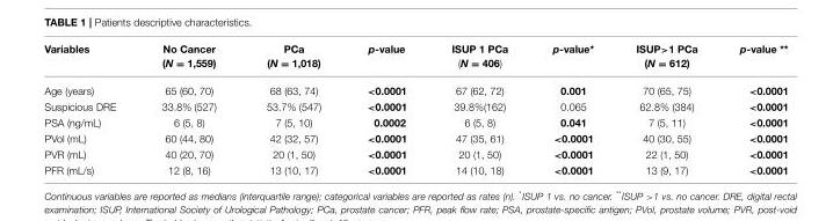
<table><thead><tr><td>Variables</td><td>No Cancer (N = 1,559)</td><td>PCa (N = 1,018)</td><td>p-value</td><td>ISUP 1 PCa (N = 406)</td><td>p-value*</td><td>ISUP&gt;1 PCa (N = 612)</td><td>p-value **</td></tr></thead><tbody><tr><td>Age (years)</td><td>65 (60, 70)</td><td>68 (63, 74)</td><td>&lt;0.0001</td><td>67 (62, 72)</td><td>0.001</td><td>70 (65, 75)</td><td>&lt;0.0001</td></tr><tr><td>Suspicious DRE</td><td>33.8% (527)</td><td>53.7% (547)</td><td>&lt;0.0001</td><td>39.8%(162)</td><td>0.065</td><td>62.8% (384)</td><td>&lt;0.0001</td></tr><tr><td>PSA (ng/mL)</td><td>6 (5, 8)</td><td>7 (5, 10)</td><td>0.0002</td><td>6 (5, 8)</td><td>0.041</td><td>7 (5, 11)</td><td>&lt;0.0001</td></tr><tr><td>PVol (mL)</td><td>60 (44, 80)</td><td>42 (32, 57)</td><td>&lt;0.0001</td><td>47 (35, 61)</td><td>&lt;0.0001</td><td>40 (30, 55)</td><td>&lt;0.0001</td></tr><tr><td>PVR (mL)</td><td>40 (20, 70)</td><td>20 (1, 50)</td><td>&lt;0.0001</td><td>20 (1, 50)</td><td>&lt;0.0001</td><td>22 (1, 50)</td><td>&lt;0.0001</td></tr><tr><td>PFR (mL/s)</td><td>12 (8, 16)</td><td>13 (10, 17)</td><td>&lt;0.0001</td><td>14 (10, 18)</td><td>&lt;0.0001</td><td>13 (9, 17)</td><td>&lt;0.0001</td></tr></tbody></table>